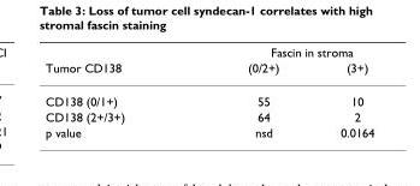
<table><thead><tr><td rowspan="2">Tumor CD138</td><td colspan="2">Fascin in stroma</td></tr><tr><td>(0/2+)</td><td>(3+)</td></tr></thead><tbody><tr><td>CD138 (0/1+)</td><td>55</td><td>10</td></tr><tr><td>CD138 (2+/3+)</td><td>64</td><td>2</td></tr><tr><td>p value</td><td>nsd</td><td>0.0164</td></tr></tbody></table>